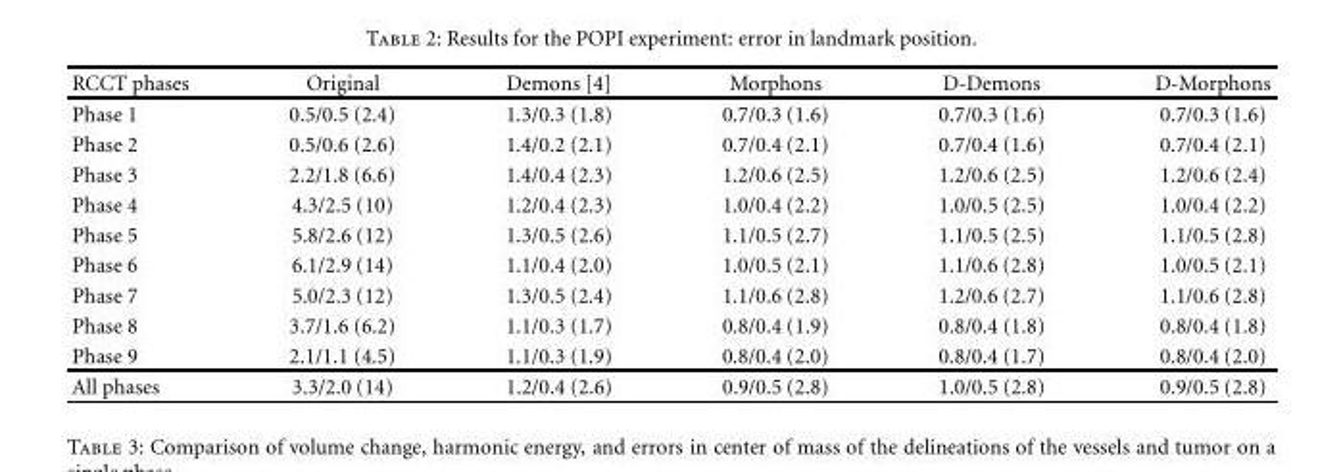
<table><thead><tr><td>RCCT phases</td><td>Original</td><td>Demons [4]</td><td>Morphons</td><td>D-Demons</td><td>D-Morphons</td></tr></thead><tbody><tr><td>Phase 1</td><td>0.5/0.5 (2.4)</td><td>1.3/0.3 (1.8)</td><td>0.7/0.3 (1.6)</td><td>0.7/0.3 (1.6)</td><td>0.7/0.3 (1.6)</td></tr><tr><td>Phase 2</td><td>0.5/0.6 (2.6)</td><td>1.4/0.2 (2.1)</td><td>0.7/0.4 (2.1)</td><td>0.7/0.4 (1.6)</td><td>0.7/0.4 (2.1)</td></tr><tr><td>Phase 3</td><td>2.2/1.8 (6.6)</td><td>1.4/0.4 (2.3)</td><td>1.2/0.6 (2.5)</td><td>1.2/0.6 (2.5)</td><td>1.2/0.6 (2.4)</td></tr><tr><td>Phase 4</td><td>4.3/2.5 (10)</td><td>1.2/0.4 (2.3)</td><td>1.0/0.4 (2.2)</td><td>1.0/0.5 (2.5)</td><td>1.0/0.4 (2.2)</td></tr><tr><td>Phase 5</td><td>5.8/2.6 (12)</td><td>1.3/0.5 (2.6)</td><td>1.1/0.5 (2.7)</td><td>1.1/0.5 (2.5)</td><td>1.1/0.5 (2.8)</td></tr><tr><td>Phase 6</td><td>6.1/2.9 (14)</td><td>1.1/0.4 (2.0)</td><td>1.0/0.5 (2.1)</td><td>1.1/0.6 (2.8)</td><td>1.0/0.5 (2.1)</td></tr><tr><td>Phase 7</td><td>5.0/2.3 (12)</td><td>1.3/0.5 (2.4)</td><td>1.1/0.6 (2.8)</td><td>1.2/0.6 (2.7)</td><td>1.1/0.6 (2.8)</td></tr><tr><td>Phase 8</td><td>3.7/1.6 (6.2)</td><td>1.1/0.3 (1.7)</td><td>0.8/0.4 (1.9)</td><td>0.8/0.4 (1.8)</td><td>0.8/0.4 (1.8)</td></tr><tr><td>Phase 9</td><td>2.1/1.1 (4.5)</td><td>1.1/0.3 (1.9)</td><td>0.8/0.4 (2.0)</td><td>0.8/0.4 (1.7)</td><td>0.8/0.4 (2.0)</td></tr><tr><td>All phases</td><td>3.3/2.0 (14)</td><td>1.2/0.4 (2.6)</td><td>0.9/0.5 (2.8)</td><td>1.0/0.5 (2.8)</td><td>0.9/0.5 (2.8)</td></tr></tbody></table>